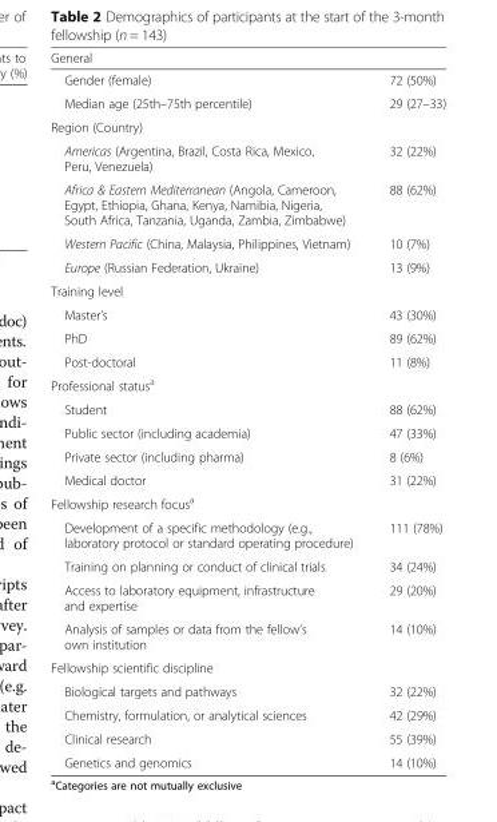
<table><thead><tr><td colspan="2">General</td></tr><tr><td>Gender (female)</td><td>72 (50%)</td></tr></thead><tbody><tr><td>Median age (25th–75th percentile)</td><td>29 (27–33)</td></tr><tr><td colspan="2">Region (Country)</td></tr><tr><td>Americas (Argentina, Brazil, Costa Rica, Mexico, Peru, Venezuela)</td><td>32 (22%)</td></tr><tr><td>Africa &amp; Eastern Mediterranean (Angola, Cameroon, Egypt, Ethiopia, Ghana, Kenya, Namibia, Nigeria, South Africa, Tanzania, Uganda, Zambia, Zimbabwe)</td><td>88 (62%)</td></tr><tr><td>Western Pacific (China, Malaysia, Philippines, Vietnam)</td><td>10 (7%)</td></tr><tr><td>Europe (Russian Federation, Ukraine)</td><td>13 (9%)</td></tr><tr><td colspan="2">Training level</td></tr><tr><td>Master’s</td><td>43 (30%)</td></tr><tr><td>PhD</td><td>89 (62%)</td></tr><tr><td>Post-doctoral</td><td>11 (8%)</td></tr><tr><td colspan="2">Professional status<sup>a</sup></td></tr><tr><td>Student</td><td>88 (62%)</td></tr><tr><td>Public sector (including academia)</td><td>47 (33%)</td></tr><tr><td>Private sector (including pharma)</td><td>8 (6%)</td></tr><tr><td>Medical doctor</td><td>31 (22%)</td></tr><tr><td colspan="2">Fellowship research focus<sup>a</sup></td></tr><tr><td>Development of a specific methodology (e.g., laboratory protocol or standard operating procedure)</td><td>111 (78%)</td></tr><tr><td>Training on planning or conduct of clinical trials</td><td>34 (24%)</td></tr><tr><td>Access to laboratory equipment, infrastructure and expertise</td><td>29 (20%)</td></tr><tr><td>Analysis of samples or data from the fellow’s own institution</td><td>14 (10%)</td></tr><tr><td colspan="2">Fellowship scientific discipline</td></tr><tr><td>Biological targets and pathways</td><td>32 (22%)</td></tr><tr><td>Chemistry, formulation, or analytical sciences</td><td>42 (29%)</td></tr><tr><td>Clinical research</td><td>55 (39%)</td></tr><tr><td>Genetics and genomics</td><td>14 (10%)</td></tr></tbody></table>